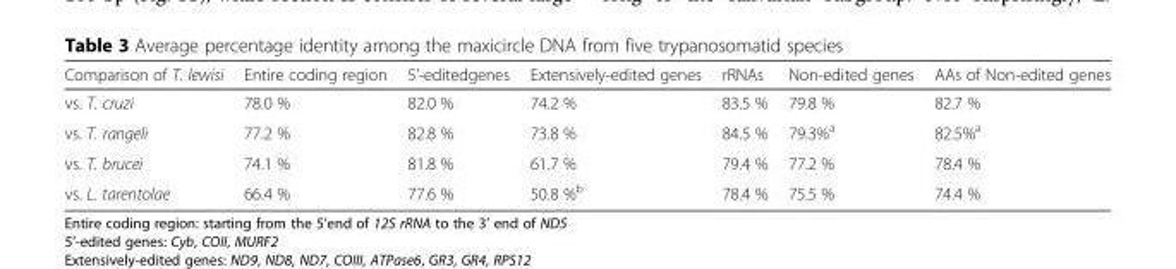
<table><thead><tr><td>Comparison of T. lewisi</td><td>Entire coding region</td><td>5’-editedgenes</td><td>Extensively-edited genes</td><td>rRNAs</td><td>Non-edited genes</td><td>AAs of Non-edited genes</td></tr></thead><tbody><tr><td>vs. T. cruzi</td><td>78.0 %</td><td>82.0 %</td><td>74.2 %</td><td>83.5 %</td><td>79.8 %</td><td>82.7 %</td></tr><tr><td>vs. T. rangeli</td><td>77.2 %</td><td>82.8 %</td><td>73.8 %</td><td>84.5 %</td><td>79.3%<sup>a</sup></td><td>82.5%<sup>a</sup></td></tr><tr><td>vs. T. brucei</td><td>74.1 %</td><td>81.8 %</td><td>61.7 %</td><td>79.4 %</td><td>77.2 %</td><td>78.4 %</td></tr><tr><td>vs. L. tarentolae</td><td>66.4 %</td><td>77.6 %</td><td>50.8 %<sup>b</sup></td><td>78.4 %</td><td>75.5 %</td><td>74.4 %</td></tr></tbody></table>